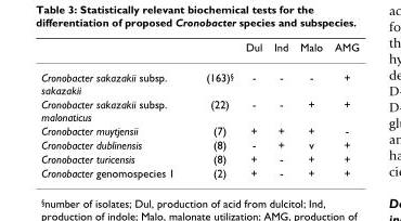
<table><thead><tr><td></td><td></td><td>Dul</td><td>Ind</td><td>Malo</td><td>AMG</td></tr></thead><tbody><tr><td>Cronobacter sakazakii subsp. sakazakii</td><td>(163)<sup>§</sup></td><td>-</td><td>-</td><td>-</td><td>+</td></tr><tr><td>Cronobacter sakazakii subsp. malonaticus</td><td>(22)</td><td>-</td><td>-</td><td>+</td><td>+</td></tr><tr><td>Cronobacter muytjensii</td><td>(7)</td><td>+</td><td>+</td><td>+</td><td>-</td></tr><tr><td>Cronobacter dublinensis</td><td>(8)</td><td>-</td><td>+</td><td>v</td><td>+</td></tr><tr><td>Cronobacter turicensis</td><td>(8)</td><td>+</td><td>-</td><td>+</td><td>+</td></tr><tr><td>Cronobacter genomospecies 1</td><td>(2)</td><td>+</td><td>-</td><td>+</td><td>+</td></tr></tbody></table>